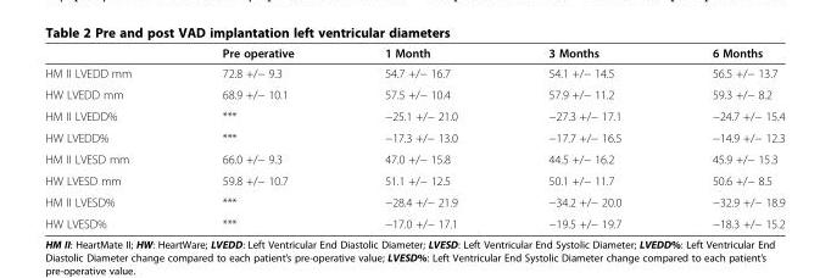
<table><thead><tr><td></td><td>Pre operative</td><td>1 Month</td><td>3 Months</td><td>6 Months</td></tr></thead><tbody><tr><td>HM II LVEDD mm</td><td>72.8 +/− 9.3</td><td>54.7 +/− 16.7</td><td>54.1 +/− 14.5</td><td>56.5 +/− 13.7</td></tr><tr><td>HW LVEDD mm</td><td>68.9 +/− 10.1</td><td>57.5 +/− 10.4</td><td>57.9 +/− 11.2</td><td>59.3 +/− 8.2</td></tr><tr><td>HM II LVEDD%</td><td>***</td><td>−25.1 +/− 21.0</td><td>−27.3 +/− 17.1</td><td>−24.7 +/− 15.4</td></tr><tr><td>HW LVEDD%</td><td>***</td><td>−17.3 +/− 13.0</td><td>−17.7 +/− 16.5</td><td>−14.9 +/− 12.3</td></tr><tr><td>HM II LVESD mm</td><td>66.0 +/− 9.3</td><td>47.0 +/− 15.8</td><td>44.5 +/− 16.2</td><td>45.9 +/− 15.3</td></tr><tr><td>HW LVESD mm</td><td>59.8 +/− 10.7</td><td>51.1 +/− 12.5</td><td>50.1 +/− 11.7</td><td>50.6 +/− 8.5</td></tr><tr><td>HM II LVESD%</td><td>***</td><td>−28.4 +/− 21.9</td><td>−34.2 +/− 20.0</td><td>−32.9 +/− 18.9</td></tr><tr><td>HW LVESD%</td><td>***</td><td>−17.0 +/− 17.1</td><td>−19.5 +/− 19.7</td><td>−18.3 +/− 15.2</td></tr></tbody></table>